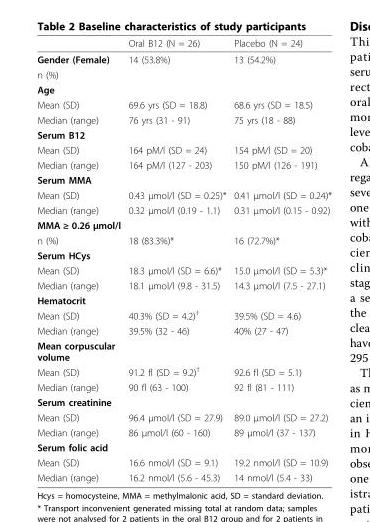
<table><thead><tr><td></td><td>Oral B12 (N = 26)</td><td>Placebo (N = 24)</td></tr></thead><tbody><tr><td>Gender (Female)</td><td>14 (53.8%)</td><td>13 (54.2%)</td></tr><tr><td colspan="3">n (%)</td></tr><tr><td colspan="3">Age</td></tr><tr><td>Mean (SD)</td><td>69.6 yrs (SD = 18.8)</td><td>68.6 yrs (SD = 18.5)</td></tr><tr><td>Median (range)</td><td>76 yrs (31 - 91)</td><td>75 yrs (18 - 88)</td></tr><tr><td colspan="3">Serum B12</td></tr><tr><td>Mean (SD)</td><td>164 pM/l (SD = 24)</td><td>154 pM/l (SD = 20)</td></tr><tr><td>Median (range)</td><td>164 pM/l (127 - 203)</td><td>150 pM/l (126 - 191)</td></tr><tr><td colspan="3">Serum MMA</td></tr><tr><td>Mean (SD)</td><td>0.43 μmol/l (SD = 0.25)*</td><td>0.41 μmol/l (SD = 0.24)*</td></tr><tr><td>Median (range)</td><td>0.32 μmol/l (0.19 - 1.1)</td><td>0.31 μmol/l (0.15 - 0.92)</td></tr><tr><td colspan="3">MMA ≥ 0.26 μmol/l</td></tr><tr><td>n (%)</td><td>18 (83.3%)*</td><td>16 (72.7%)*</td></tr><tr><td colspan="3">Serum HCys</td></tr><tr><td>Mean (SD)</td><td>18.3 μmol/l (SD = 6.6)*</td><td>15.0 μmol/l (SD = 5.3)*</td></tr><tr><td>Median (range)</td><td>18.1 μmol/l (9.8 - 31.5)</td><td>14.3 μmol/l (7.5 - 27.1)</td></tr><tr><td colspan="3">Hematocrit</td></tr><tr><td>Mean (SD)</td><td>40.3% (SD = 4.2)<sup>†</sup></td><td>39.5% (SD = 4.6)</td></tr><tr><td>Median (range)</td><td>39.5% (32 - 46)</td><td>40% (27 - 47)</td></tr><tr><td colspan="3">Mean corpuscular volume</td></tr><tr><td>Mean (SD)</td><td>91.2 fl (SD = 9.2)<sup>†</sup></td><td>92.6 fl (SD = 5.1)</td></tr><tr><td>Median (range)</td><td>90 fl (63 - 100)</td><td>92 fl (81 - 111)</td></tr><tr><td colspan="3">Serum creatinine</td></tr><tr><td>Mean (SD)</td><td>96.4 μmol/l (SD = 27.9)</td><td>89.0 μmol/l (SD = 27.2)</td></tr><tr><td>Median (range)</td><td>86 μmol/l (60 - 160)</td><td>89 μmol/l (37 - 137)</td></tr><tr><td colspan="3">Serum folic acid</td></tr><tr><td>Mean (SD)</td><td>16.6 nmol/l (SD = 9.1)</td><td>19.2 nmol/l (SD = 10.9)</td></tr><tr><td>Median (range)</td><td>16.2 nmol/l (5.6 - 45.3)</td><td>14 nmol/l (5.4 - 33)</td></tr></tbody></table>